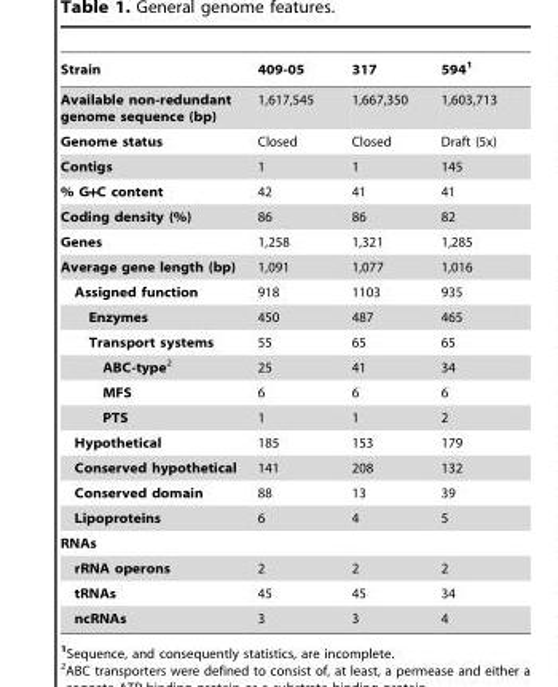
<table><thead><tr><td>Strain</td><td>409-05</td><td>317</td><td>594<sup>1</sup></td></tr></thead><tbody><tr><td>Available non-redundant genome sequence (bp)</td><td>1,617,545</td><td>1,667,350</td><td>1,603,713</td></tr><tr><td>Genome status</td><td>Closed</td><td>Closed</td><td>Draft (5x)</td></tr><tr><td>Contigs</td><td>1</td><td>1</td><td>145</td></tr><tr><td>% G+C content</td><td>42</td><td>41</td><td>41</td></tr><tr><td>Coding density (%)</td><td>86</td><td>86</td><td>82</td></tr><tr><td>Genes</td><td>1,258</td><td>1,321</td><td>1,285</td></tr><tr><td>Average gene length (bp)</td><td>1,091</td><td>1,077</td><td>1,016</td></tr><tr><td>Assigned function</td><td>918</td><td>1103</td><td>935</td></tr><tr><td>Enzymes</td><td>450</td><td>487</td><td>465</td></tr><tr><td>Transport systems</td><td>55</td><td>65</td><td>65</td></tr><tr><td>ABC-type2</td><td>25</td><td>41</td><td>34</td></tr><tr><td>MFS</td><td>6</td><td>6</td><td>6</td></tr><tr><td>PTS</td><td>1</td><td>1</td><td>2</td></tr><tr><td>Hypothetical</td><td>185</td><td>153</td><td>179</td></tr><tr><td>Conserved hypothetical</td><td>141</td><td>208</td><td>132</td></tr><tr><td>Conserved domain</td><td>88</td><td>13</td><td>39</td></tr><tr><td>Lipoproteins</td><td>6</td><td>4</td><td>5</td></tr><tr><td colspan="4">RNAs</td></tr><tr><td>rRNA operons</td><td>2</td><td>2</td><td>2</td></tr><tr><td>tRNAs</td><td>45</td><td>45</td><td>34</td></tr><tr><td>ncRNAs</td><td>3</td><td>3</td><td>4</td></tr></tbody></table>